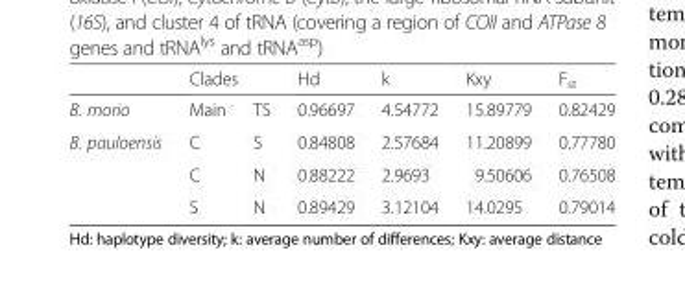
<table><thead><tr><td rowspan="2">B. morio</td><td colspan="2">Clades</td><td rowspan="2">Hd 0.96697</td><td rowspan="2">k 4.54772</td><td rowspan="2">Kxy 15.89779</td><td rowspan="2">F<sub>st</sub> 0.82429</td></tr><tr><td>Main</td><td>TS</td></tr></thead><tbody><tr><td rowspan="3">B. pauloensis</td><td>C</td><td>S</td><td>0.84808</td><td>2.57684</td><td>11.20899</td><td>0.77780</td></tr><tr><td>C</td><td>N</td><td>0.88222</td><td>2.9693</td><td>9.50606</td><td>0.76508</td></tr><tr><td>S</td><td>N</td><td>0.89429</td><td>3.12104</td><td>14.0295</td><td>0.79014</td></tr></tbody></table>